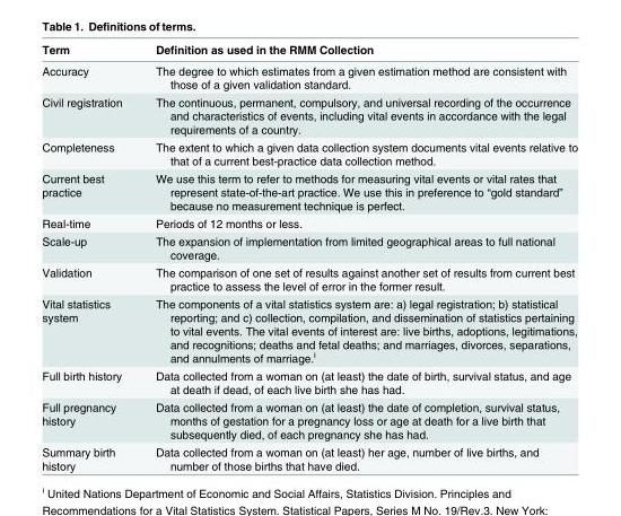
<table><thead><tr><td>Term</td><td>Definition as used in the RMM Collection</td></tr></thead><tbody><tr><td>Accuracy</td><td>The degree to which estimates from a given estimation method are consistent with those of a given validation standard.</td></tr><tr><td>Civil registration</td><td>The continuous, permanent, compulsory, and universal recording of the occurrence and characteristics of events, including vital events in accordance with the legal requirements of a country.</td></tr><tr><td>Completeness</td><td>The extent to which a given data collection system documents vital events relative to that of a current best-practice data collection method.</td></tr><tr><td>Current best practice</td><td>We use this term to refer to methods for measuring vital events or vital rates that represent state-of-the-art practice. We use this in preference to “gold standard” because no measurement technique is perfect.</td></tr><tr><td>Real-time</td><td>Periods of 12 months or less.</td></tr><tr><td>Scale-up</td><td>The expansion of implementation from limited geographical areas to full national coverage.</td></tr><tr><td>Validation</td><td>The comparison of one set of results against another set of results from current best practice to assess the level of error in the former result.</td></tr><tr><td>Vital statistics system</td><td>The components of a vital statistics system are: a) legal registration; b) statistical reporting; and c) collection, compilation, and dissemination of statistics pertaining to vital events. The vital events of interest are: live births, adoptions, legitimations, and recognitions; deaths and fetal deaths; and marriages, divorces, separations, and annulments of marriage.<sup>i</sup></td></tr><tr><td>Full birth history</td><td>Data collected from a woman on (at least) the date of birth, survival status, and age at death if dead, of each live birth she has had.</td></tr><tr><td>Full pregnancy history</td><td>Data collected from a woman on (at least) the date of completion, survival status, months of gestation for a pregnancy loss or age at death for a live birth that subsequently died, of each pregnancy she has had.</td></tr><tr><td>Summary birth history</td><td>Data collected from a woman on (at least) her age, number of live births, and number of those births that have died.</td></tr></tbody></table>